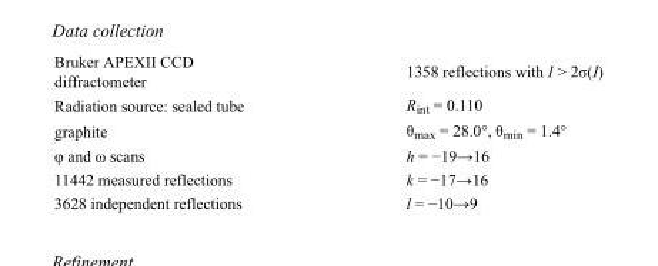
<table><tbody><tr><td>Bruker APEXII CCD diffractometer</td><td>1358 reflections with I &gt; 2σ(I)</td></tr><tr><td>Radiation source: sealed tube</td><td>R<sub>int</sub> = 0.110</td></tr><tr><td>graphite</td><td>θ<sub>max</sub> = 28.0°, θ<sub>min</sub> = 1.4°</td></tr><tr><td>φ and ω scans</td><td>h = −19→16</td></tr><tr><td>11442 measured reflections</td><td>k = −17→16</td></tr><tr><td>3628 independent reflections</td><td>l = −10→9</td></tr></tbody></table>